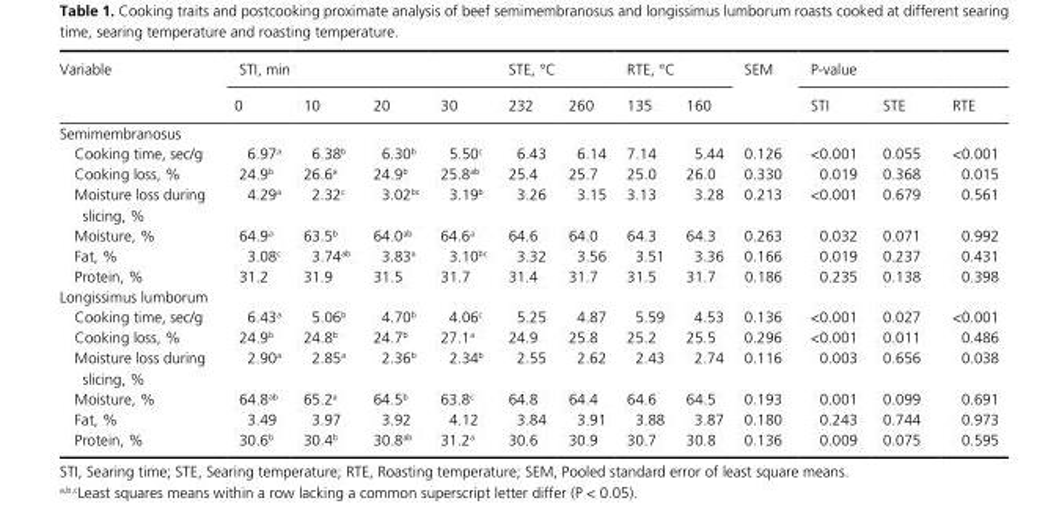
<table><thead><tr><td rowspan="2">Variable</td><td colspan="4">STI, min</td><td colspan="2">STE, °C</td><td colspan="2">RTE, °C</td><td rowspan="2">SEM</td><td colspan="3">P- value</td></tr><tr><td>0</td><td>10</td><td>20</td><td>30</td><td>232</td><td>260</td><td>135</td><td>160</td><td>STI</td><td>STE</td><td>RTE</td></tr></thead><tbody><tr><td colspan="13">Semimembranosus</td></tr><tr><td>Cooking time, sec/g</td><td>6.97<sup>a</sup></td><td>6.38<sup>b</sup></td><td>6.30<sup>b</sup></td><td>5.50<sup>c</sup></td><td>6.43</td><td>6.14</td><td>7.14</td><td>5.44</td><td>0.126</td><td>&lt;0.001</td><td>0.055</td><td>&lt;0.001</td></tr><tr><td>Cooking loss, %</td><td>24.9<sup>b</sup></td><td>26.6<sup>a</sup></td><td>24.9<sup>b</sup></td><td>25.8<sup>ab</sup></td><td>25.4</td><td>25.7</td><td>25.0</td><td>26.0</td><td>0.330</td><td>0.019</td><td>0.368</td><td>0.015</td></tr><tr><td>Moisture loss during slicing, %</td><td>4.29<sup>a</sup></td><td>2.32<sup>c</sup></td><td>3.02<sup>bc</sup></td><td>3.19<sup>b</sup></td><td>3.26</td><td>3.15</td><td>3.13</td><td>3.28</td><td>0.213</td><td>&lt;0.001</td><td>0.679</td><td>0.561</td></tr><tr><td>Moisture, %</td><td>64.9<sup>a</sup></td><td>63.5<sup>b</sup></td><td>64.0<sup>ab</sup></td><td>64.6<sup>a</sup></td><td>64.6</td><td>64.0</td><td>64.3</td><td>64.3</td><td>0.263</td><td>0.032</td><td>0.071</td><td>0.992</td></tr><tr><td>Fat, %</td><td>3.08<sup>c</sup></td><td>3.74<sup>ab</sup></td><td>3.83<sup>a</sup></td><td>3.10<sup>bc</sup></td><td>3.32</td><td>3.56</td><td>3.51</td><td>3.36</td><td>0.166</td><td>0.019</td><td>0.237</td><td>0.431</td></tr><tr><td>Protein, %</td><td>31.2</td><td>31.9</td><td>31.5</td><td>31.7</td><td>31.4</td><td>31.7</td><td>31.5</td><td>31.7</td><td>0.186</td><td>0.235</td><td>0.138</td><td>0.398</td></tr><tr><td colspan="13">Longissimus lumborum</td></tr><tr><td>Cooking time, sec/g</td><td>6.43<sup>a</sup></td><td>5.06<sup>b</sup></td><td>4.70<sup>b</sup></td><td>4.06<sup>c</sup></td><td>5.25</td><td>4.87</td><td>5.59</td><td>4.53</td><td>0.136</td><td>&lt;0.001</td><td>0.027</td><td>&lt;0.001</td></tr><tr><td>Cooking loss, %</td><td>24.9<sup>b</sup></td><td>24.8<sup>b</sup></td><td>24.7<sup>b</sup></td><td>27.1<sup>a</sup></td><td>24.9</td><td>25.8</td><td>25.2</td><td>25.5</td><td>0.296</td><td>&lt;0.001</td><td>0.011</td><td>0.486</td></tr><tr><td>Moisture loss during slicing, %</td><td>2.90<sup>a</sup></td><td>2.85<sup>a</sup></td><td>2.36<sup>b</sup></td><td>2.34<sup>b</sup></td><td>2.55</td><td>2.62</td><td>2.43</td><td>2.74</td><td>0.116</td><td>0.003</td><td>0.656</td><td>0.038</td></tr><tr><td>Moisture, %</td><td>64.8<sup>ab</sup></td><td>65.2<sup>a</sup></td><td>64.5<sup>b</sup></td><td>63.8<sup>c</sup></td><td>64.8</td><td>64.4</td><td>64.6</td><td>64.5</td><td>0.193</td><td>0.001</td><td>0.099</td><td>0.691</td></tr><tr><td>Fat, %</td><td>3.49</td><td>3.97</td><td>3.92</td><td>4.12</td><td>3.84</td><td>3.91</td><td>3.88</td><td>3.87</td><td>0.180</td><td>0.243</td><td>0.744</td><td>0.973</td></tr><tr><td>Protein, %</td><td>30.6<sup>b</sup></td><td>30.4<sup>b</sup></td><td>30.8<sup>ab</sup></td><td>31.2<sup>a</sup></td><td>30.6</td><td>30.9</td><td>30.7</td><td>30.8</td><td>0.136</td><td>0.009</td><td>0.075</td><td>0.595</td></tr></tbody></table>